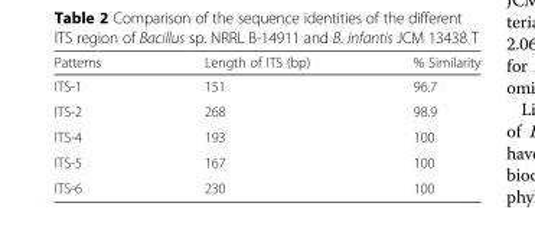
<table><thead><tr><td>Patterns</td><td>Length of ITS (bp)</td><td>% Similarity</td></tr></thead><tbody><tr><td>ITS-1</td><td>151</td><td>96.7</td></tr><tr><td>ITS-2</td><td>268</td><td>98.9</td></tr><tr><td>ITS-4</td><td>193</td><td>100</td></tr><tr><td>ITS-5</td><td>167</td><td>100</td></tr><tr><td>ITS-6</td><td>230</td><td>100</td></tr></tbody></table>